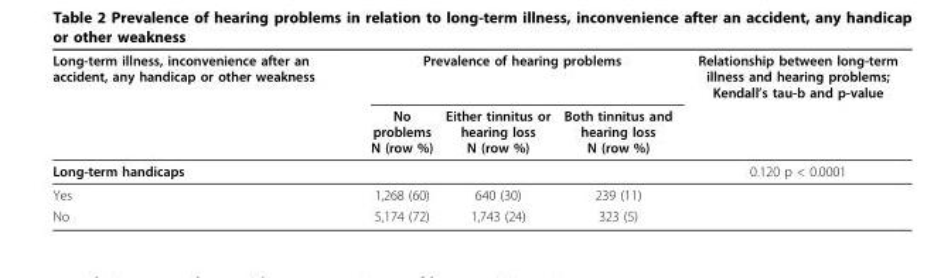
<table><thead><tr><td rowspan="2">Long-term illness, inconvenience after an accident, any handicap or other weakness</td><td colspan="3">Prevalence of hearing problems</td><td rowspan="2">Relationship between long-term illness and hearing problems; Kendall’s tau-b and p-value</td></tr><tr><td>No problems N (row %)</td><td>Either tinnitus or hearing loss N (row %)</td><td>Both tinnitus and hearing loss N (row %)</td></tr></thead><tbody><tr><td colspan="4">Long-term handicaps</td><td>0.120 p &lt; 0.0001</td></tr><tr><td>Yes</td><td>1,268 (60)</td><td>640 (30)</td><td>239 (11)</td><td></td></tr><tr><td>No</td><td>5,174 (72)</td><td>1,743 (24)</td><td>323 (5)</td><td></td></tr></tbody></table>